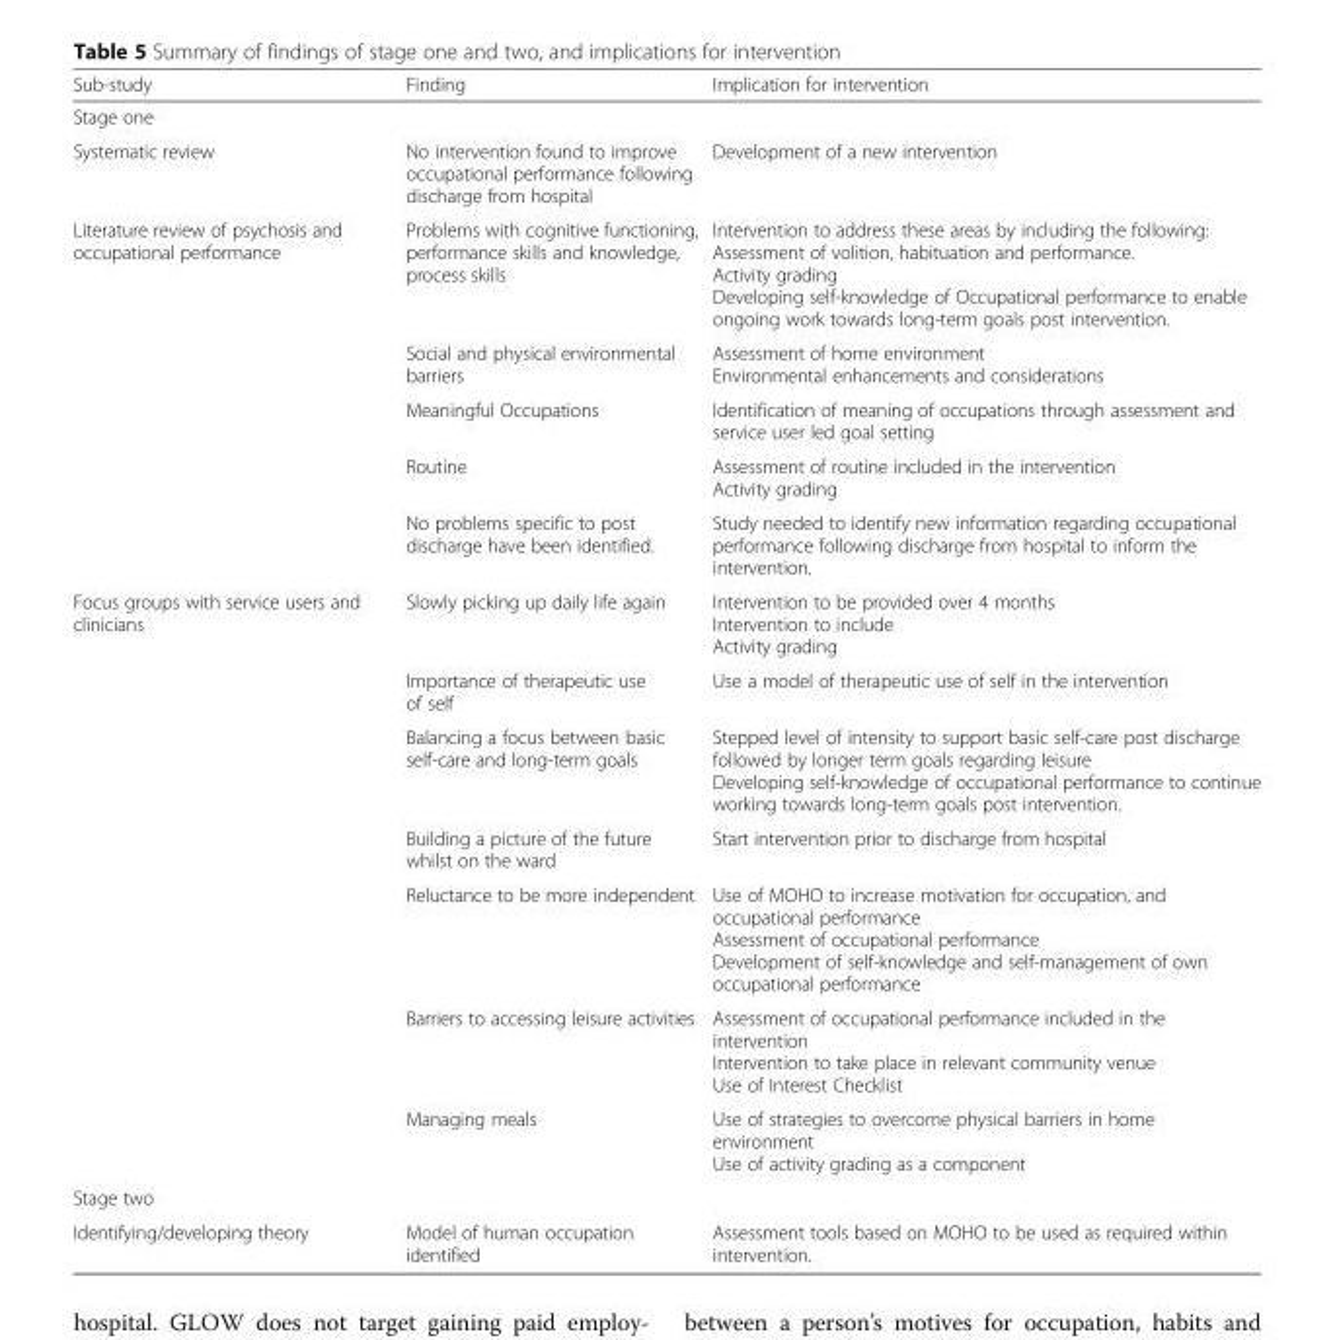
<table><thead><tr><td>Sub-study</td><td>Finding</td><td>Implication for intervention</td></tr></thead><tbody><tr><td colspan="3">Stage one</td></tr><tr><td>Systematic review</td><td>No intervention found to improve occupational performance following discharge from hospital</td><td>Development of a new intervention</td></tr><tr><td rowspan="5">Literature review of psychosis and occupational performance</td><td>Problems with cognitive functioning, performance skills and knowledge, process skills</td><td>Intervention to address these areas by including the following: Assessment of volition, habituation and performance. Activity grading Developing self-knowledge of Occupational performance to enable ongoing work towards long-term goals post intervention.</td></tr><tr><td>Social and physical environmental barriers</td><td>Assessment of home environment Environmental enhancements and considerations</td></tr><tr><td>Meaningful Occupations</td><td>Identification of meaning of occupations through assessment and service user led goal setting</td></tr><tr><td>Routine</td><td>Assessment of routine included in the intervention Activity grading</td></tr><tr><td>No problems specific to post discharge have been identified.</td><td>Study needed to identify new information regarding occupational performance following discharge from hospital to inform the intervention.</td></tr><tr><td rowspan="7">Focus groups with service users and clinicians</td><td>Slowly picking up daily life again</td><td>Intervention to be provided over 4 months Intervention to include Activity grading</td></tr><tr><td>Importance of therapeutic use of self</td><td>Use a model of therapeutic use of self in the intervention</td></tr><tr><td>Balancing a focus between basic self-care and long-term goals</td><td>Stepped level of intensity to support basic self-care post discharge followed by longer term goals regarding leisure Developing self-knowledge of occupational performance to continue working towards long-term goals post intervention.</td></tr><tr><td>Building a picture of the future whilst on the ward</td><td>Start intervention prior to discharge from hospital</td></tr><tr><td>Reluctance to be more independent</td><td>Use of MOHO to increase motivation for occupation, and occupational performance Assessment of occupational performance Development of self-knowledge and self-management of own occupational performance</td></tr><tr><td>Barriers to accessing leisure activities</td><td>Assessment of occupational performance included in the intervention Intervention to take place in relevant community venue Use of Interest Checklist</td></tr><tr><td>Managing meals</td><td>Use of strategies to overcome physical barriers in home environment Use of activity grading as a component</td></tr><tr><td colspan="3">Stage two</td></tr><tr><td>Identifying/developing theory</td><td>Model of human occupation identified</td><td>Assessment tools based on MOHO to be used as required within intervention.</td></tr></tbody></table>